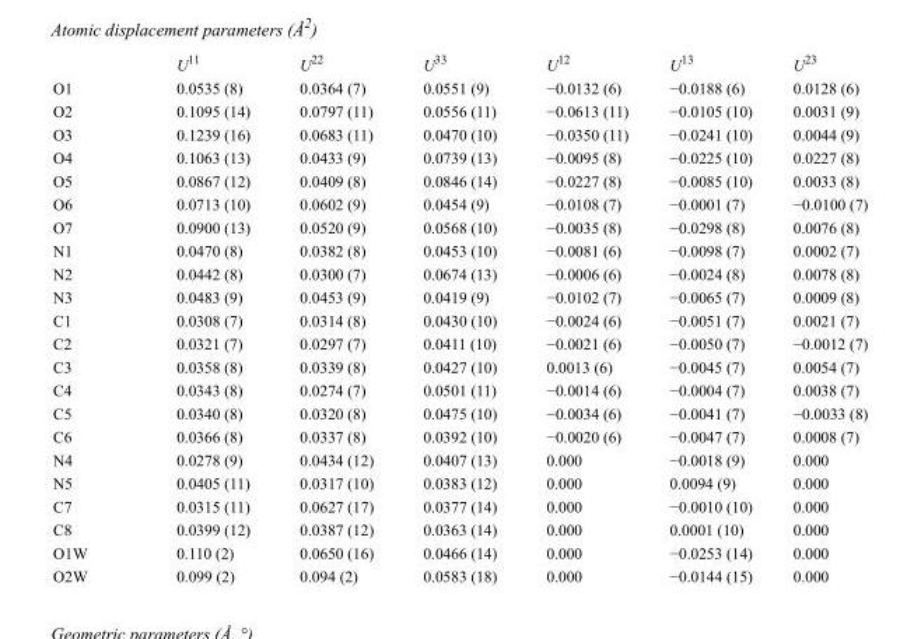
<table><thead><tr><td></td><td>U<sup>11</sup></td><td>U<sup>22</sup></td><td>U<sup>33</sup></td><td>U<sup>12</sup></td><td>U<sup>13</sup></td><td>U<sup>23</sup></td></tr></thead><tbody><tr><td>O1</td><td>0.0535 (8)</td><td>0.0364 (7)</td><td>0.0551 (9)</td><td>−0.0132 (6)</td><td>−0.0188 (6)</td><td>0.0128 (6)</td></tr><tr><td>O2</td><td>0.1095 (14)</td><td>0.0797 (11)</td><td>0.0556 (11)</td><td>−0.0613 (11)</td><td>−0.0105 (10)</td><td>0.0031 (9)</td></tr><tr><td>O3</td><td>0.1239 (16)</td><td>0.0683 (11)</td><td>0.0470 (10)</td><td>−0.0350 (11)</td><td>−0.0241 (10)</td><td>0.0044 (9)</td></tr><tr><td>O4</td><td>0.1063 (13)</td><td>0.0433 (9)</td><td>0.0739 (13)</td><td>−0.0095 (8)</td><td>−0.0225 (10)</td><td>0.0227 (8)</td></tr><tr><td>O5</td><td>0.0867 (12)</td><td>0.0409 (8)</td><td>0.0846 (14)</td><td>−0.0227 (8)</td><td>−0.0085 (10)</td><td>0.0033 (8)</td></tr><tr><td>O6</td><td>0.0713 (10)</td><td>0.0602 (9)</td><td>0.0454 (9)</td><td>−0.0108 (7)</td><td>−0.0001 (7)</td><td>−0.0100 (7)</td></tr><tr><td>O7</td><td>0.0900 (13)</td><td>0.0520 (9)</td><td>0.0568 (10)</td><td>−0.0035 (8)</td><td>−0.0298 (8)</td><td>0.0076 (8)</td></tr><tr><td>N1</td><td>0.0470 (8)</td><td>0.0382 (8)</td><td>0.0453 (10)</td><td>−0.0081 (6)</td><td>−0.0098 (7)</td><td>0.0002 (7)</td></tr><tr><td>N2</td><td>0.0442 (8)</td><td>0.0300 (7)</td><td>0.0674 (13)</td><td>−0.0006 (6)</td><td>−0.0024 (8)</td><td>0.0078 (8)</td></tr><tr><td>N3</td><td>0.0483 (9)</td><td>0.0453 (9)</td><td>0.0419 (9)</td><td>−0.0102 (7)</td><td>−0.0065 (7)</td><td>0.0009 (8)</td></tr><tr><td>C1</td><td>0.0308 (7)</td><td>0.0314 (8)</td><td>0.0430 (10)</td><td>−0.0024 (6)</td><td>−0.0051 (7)</td><td>0.0021 (7)</td></tr><tr><td>C2</td><td>0.0321 (7)</td><td>0.0297 (7)</td><td>0.0411 (10)</td><td>−0.0021 (6)</td><td>−0.0050 (7)</td><td>−0.0012 (7)</td></tr><tr><td>C3</td><td>0.0358 (8)</td><td>0.0339 (8)</td><td>0.0427 (10)</td><td>0.0013 (6)</td><td>−0.0045 (7)</td><td>0.0054 (7)</td></tr><tr><td>C4</td><td>0.0343 (8)</td><td>0.0274 (7)</td><td>0.0501 (11)</td><td>−0.0014 (6)</td><td>−0.0004 (7)</td><td>0.0038 (7)</td></tr><tr><td>C5</td><td>0.0340 (8)</td><td>0.0320 (8)</td><td>0.0475 (10)</td><td>−0.0034 (6)</td><td>−0.0041 (7)</td><td>−0.0033 (8)</td></tr><tr><td>C6</td><td>0.0366 (8)</td><td>0.0337 (8)</td><td>0.0392 (10)</td><td>−0.0020 (6)</td><td>−0.0047 (7)</td><td>0.0008 (7)</td></tr><tr><td>N4</td><td>0.0278 (9)</td><td>0.0434 (12)</td><td>0.0407 (13)</td><td>0.000</td><td>−0.0018 (9)</td><td>0.000</td></tr><tr><td>N5</td><td>0.0405 (11)</td><td>0.0317 (10)</td><td>0.0383 (12)</td><td>0.000</td><td>0.0094 (9)</td><td>0.000</td></tr><tr><td>C7</td><td>0.0315 (11)</td><td>0.0627 (17)</td><td>0.0377 (14)</td><td>0.000</td><td>−0.0010 (10)</td><td>0.000</td></tr><tr><td>C8</td><td>0.0399 (12)</td><td>0.0387 (12)</td><td>0.0363 (14)</td><td>0.000</td><td>0.0001 (10)</td><td>0.000</td></tr><tr><td>O1W</td><td>0.110 (2)</td><td>0.0650 (16)</td><td>0.0466 (14)</td><td>0.000</td><td>−0.0253 (14)</td><td>0.000</td></tr><tr><td>O2W</td><td>0.099 (2)</td><td>0.094 (2)</td><td>0.0583 (18)</td><td>0.000</td><td>−0.0144 (15)</td><td>0.000</td></tr></tbody></table>